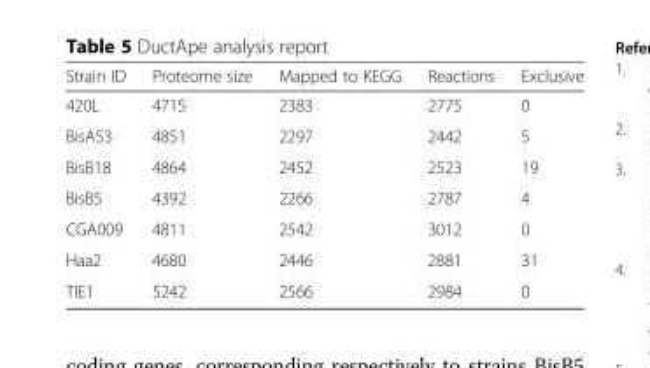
<table><thead><tr><td>Strain ID</td><td>Proteome size</td><td>Mapped to KEGG</td><td>Reactions</td><td>Exclusive</td></tr></thead><tbody><tr><td>420L</td><td>4715</td><td>2383</td><td>2775</td><td>0</td></tr><tr><td>BisA53</td><td>4851</td><td>2297</td><td>2442</td><td>5</td></tr><tr><td>BisB18</td><td>4864</td><td>2452</td><td>2523</td><td>19</td></tr><tr><td>BisB5</td><td>4392</td><td>2266</td><td>2787</td><td>4</td></tr><tr><td>CGA009</td><td>4811</td><td>2542</td><td>3012</td><td>0</td></tr><tr><td>Haa2</td><td>4680</td><td>2446</td><td>2881</td><td>31</td></tr><tr><td>TIE1</td><td>5242</td><td>2566</td><td>2984</td><td>0</td></tr></tbody></table>